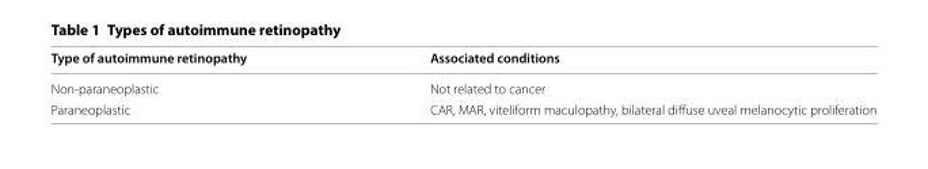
<table><thead><tr><td>Type of autoimmune retinopathy</td><td>Associated conditions</td></tr></thead><tbody><tr><td>Non-paraneoplastic</td><td>Not related to cancer</td></tr><tr><td>Paraneoplastic</td><td>CAR, MAR, viteliform maculopathy, bilateral diffuse uveal melanocytic proliferation</td></tr></tbody></table>